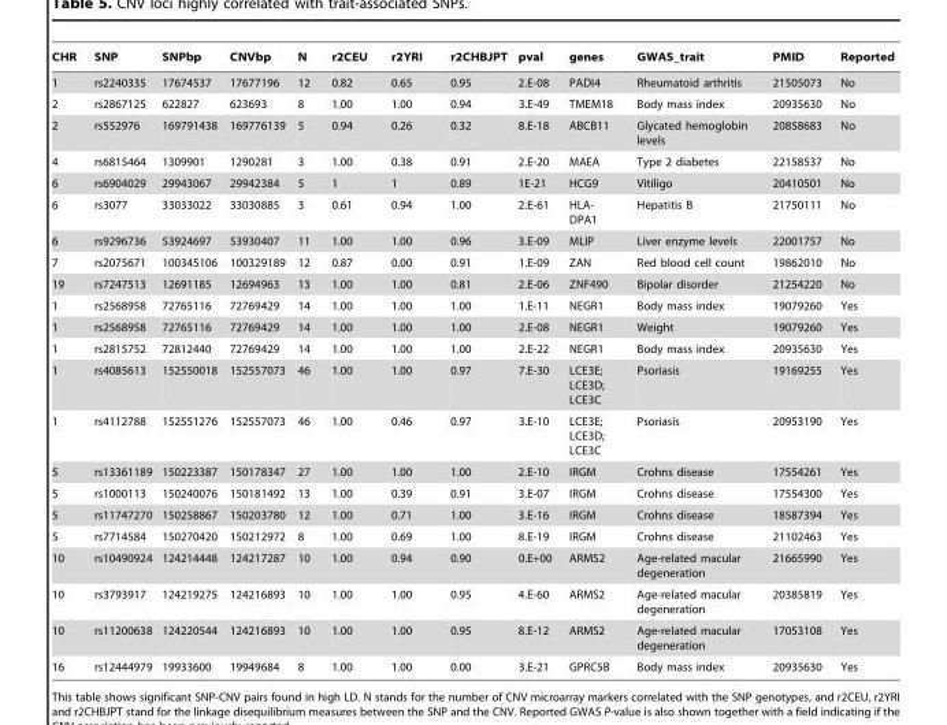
<table><thead><tr><td>CHR</td><td>SNP</td><td>SNPbp</td><td>CNVbp</td><td>N</td><td>r2CEU</td><td>r2YRI</td><td>r2CHBJPT</td><td>pval</td><td>genes</td><td>GWAS_trait</td><td>PMID</td><td>Reported</td></tr></thead><tbody><tr><td>1</td><td>rs2240335</td><td>17674537</td><td>17677196</td><td>12</td><td>0.82</td><td>0.65</td><td>0.95</td><td>2.E-08</td><td>PADI4</td><td>Rheumatoid arthritis</td><td>21505073</td><td>No</td></tr><tr><td>2</td><td>rs2867125</td><td>622827</td><td>623693</td><td>8</td><td>1.00</td><td>1.00</td><td>0.94</td><td>3.E-49</td><td>TMEM18</td><td>Body mass index</td><td>20935630</td><td>No</td></tr><tr><td>2</td><td>rs552976</td><td>169791438</td><td>169776139</td><td>5</td><td>0.94</td><td>0.26</td><td>0.32</td><td>8.E-18</td><td>ABCB11</td><td>Glycated hemoglobin levels</td><td>20858683</td><td>No</td></tr><tr><td>4</td><td>rs6815464</td><td>1309901</td><td>1290281</td><td>3</td><td>1.00</td><td>0.38</td><td>0.91</td><td>2.E-20</td><td>MAEA</td><td>Type 2 diabetes</td><td>22158537</td><td>No</td></tr><tr><td>6</td><td>rs6904029</td><td>29943067</td><td>29942384</td><td>5</td><td>1</td><td>1</td><td>0.89</td><td>1E-21</td><td>HCG9</td><td>Vitiligo</td><td>20410501</td><td>No</td></tr><tr><td>6</td><td>rs3077</td><td>33033022</td><td>33030885</td><td>3</td><td>0.61</td><td>0.94</td><td>1.00</td><td>2.E-61</td><td>HLA- DPA1</td><td>Hepatitis B</td><td>21750111</td><td>No</td></tr><tr><td>6</td><td>rs9296736</td><td>53924697</td><td>53930407</td><td>11</td><td>1.00</td><td>1.00</td><td>0.96</td><td>3.E-09</td><td>MLIP</td><td>Liver enzyme levels</td><td>22001757</td><td>No</td></tr><tr><td>7</td><td>rs2075671</td><td>100345106</td><td>100329189</td><td>12</td><td>0.87</td><td>0.00</td><td>0.91</td><td>1.E-09</td><td>ZAN</td><td>Red blood cell count</td><td>19862010</td><td>No</td></tr><tr><td>19</td><td>rs7247513</td><td>12691185</td><td>12694963</td><td>13</td><td>1.00</td><td>1.00</td><td>0.81</td><td>2.E-06</td><td>ZNF490</td><td>Bipolar disorder</td><td>21254220</td><td>No</td></tr><tr><td>1</td><td>rs2568958</td><td>72765116</td><td>72769429</td><td>14</td><td>1.00</td><td>1.00</td><td>1.00</td><td>1.E-11</td><td>NEGR1</td><td>Body mass index</td><td>19079260</td><td>Yes</td></tr><tr><td>1</td><td>rs2568958</td><td>72765116</td><td>72769429</td><td>14</td><td>1.00</td><td>1.00</td><td>1.00</td><td>2.E-08</td><td>NEGR1</td><td>Weight</td><td>19079260</td><td>Yes</td></tr><tr><td>1</td><td>rs2815752</td><td>72812440</td><td>72769429</td><td>14</td><td>1.00</td><td>1.00</td><td>1.00</td><td>2.E-22</td><td>NEGR1</td><td>Body mass index</td><td>20935630</td><td>Yes</td></tr><tr><td>1</td><td>rs4085613</td><td>152550018</td><td>152557073</td><td>46</td><td>1.00</td><td>1.00</td><td>0.97</td><td>7.E-30</td><td>LCE3E; LCE3D; LCE3C</td><td>Psoriasis</td><td>19169255</td><td>Yes</td></tr><tr><td>1</td><td>rs4112788</td><td>152551276</td><td>152557073</td><td>46</td><td>1.00</td><td>0.46</td><td>0.97</td><td>3.E-10</td><td>LCE3E; LCE3D; LCE3C</td><td>Psoriasis</td><td>20953190</td><td>Yes</td></tr><tr><td>5</td><td>rs13361189</td><td>150223387</td><td>150178347</td><td>27</td><td>1.00</td><td>1.00</td><td>1.00</td><td>2.E-10</td><td>IRGM</td><td>Crohns disease</td><td>17554261</td><td>Yes</td></tr><tr><td>5</td><td>rs1000113</td><td>150240076</td><td>150181492</td><td>13</td><td>1.00</td><td>0.39</td><td>0.91</td><td>3.E-07</td><td>IRGM</td><td>Crohns disease</td><td>17554300</td><td>Yes</td></tr><tr><td>5</td><td>rs11747270</td><td>150258867</td><td>150203780</td><td>12</td><td>1.00</td><td>0.71</td><td>1.00</td><td>3.E-16</td><td>IRGM</td><td>Crohns disease</td><td>18587394</td><td>Yes</td></tr><tr><td>5</td><td>rs7714584</td><td>150270420</td><td>150212972</td><td>8</td><td>1.00</td><td>0.69</td><td>1.00</td><td>8.E-19</td><td>IRGM</td><td>Crohns disease</td><td>21102463</td><td>Yes</td></tr><tr><td>10</td><td>rs10490924</td><td>124214448</td><td>124217287</td><td>10</td><td>1.00</td><td>0.94</td><td>0.90</td><td>0.E+00</td><td>ARMS2</td><td>Age-related macular degeneration</td><td>21665990</td><td>Yes</td></tr><tr><td>10</td><td>rs3793917</td><td>124219275</td><td>124216893</td><td>10</td><td>1.00</td><td>1.00</td><td>0.95</td><td>4.E-60</td><td>ARMS2</td><td>Age-related macular degeneration</td><td>20385819</td><td>Yes</td></tr><tr><td>10</td><td>rs11200638</td><td>124220544</td><td>124216893</td><td>10</td><td>1.00</td><td>1.00</td><td>0.95</td><td>8.E-12</td><td>ARMS2</td><td>Age-related macular degeneration</td><td>17053108</td><td>Yes</td></tr><tr><td>16</td><td>rs12444979</td><td>19933600</td><td>19949684</td><td>8</td><td>1.00</td><td>1.00</td><td>0.00</td><td>3.E-21</td><td>GPRC5B</td><td>Body mass index</td><td>20935630</td><td>Yes</td></tr></tbody></table>